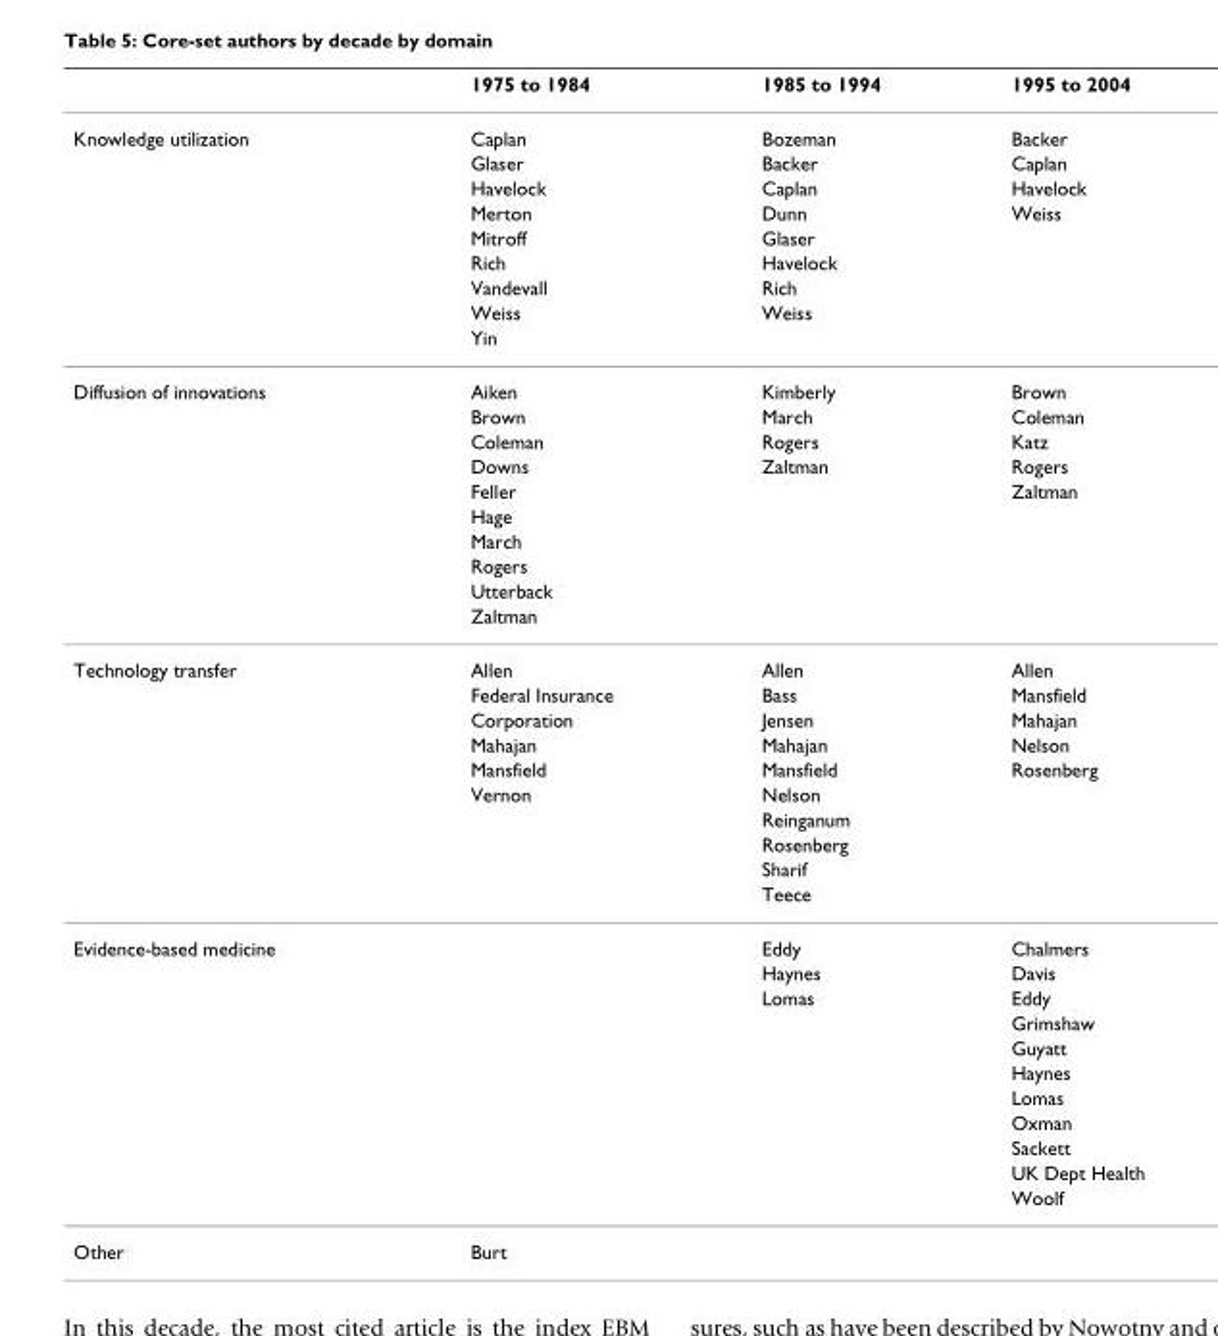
<table><thead><tr><td></td><td>1975 to 1984</td><td>1985 to 1994</td><td>1995 to 2004</td></tr></thead><tbody><tr><td rowspan="9">Knowledge utilization</td><td>Caplan</td><td>Bozeman</td><td>Backer</td></tr><tr><td>Glaser</td><td>Backer</td><td>Caplan</td></tr><tr><td>Havelock</td><td>Caplan</td><td>Havelock</td></tr><tr><td>Merton</td><td>Dunn</td><td>Weiss</td></tr><tr><td>Mitroff</td><td>Glaser</td><td></td></tr><tr><td>Rich</td><td>Havelock</td><td></td></tr><tr><td>Vandevall</td><td>Rich</td><td></td></tr><tr><td>Weiss</td><td>Weiss</td><td></td></tr><tr><td>Yin</td><td></td><td></td></tr><tr><td rowspan="10">Diffusion of innovations</td><td>Aiken</td><td>Kimberly</td><td>Brown</td></tr><tr><td>Brown</td><td>March</td><td>Coleman</td></tr><tr><td>Coleman</td><td>Rogers</td><td>Katz</td></tr><tr><td>Downs</td><td>Zaltman</td><td>Rogers</td></tr><tr><td>Feller</td><td></td><td>Zaltman</td></tr><tr><td>Hage</td><td></td><td></td></tr><tr><td>March</td><td></td><td></td></tr><tr><td>Rogers</td><td></td><td></td></tr><tr><td>Utterback</td><td></td><td></td></tr><tr><td>Zaltman</td><td></td><td></td></tr><tr><td rowspan="10">Technology transfer</td><td>Allen</td><td>Allen</td><td>Allen</td></tr><tr><td>Federal Insurance</td><td>Bass</td><td>Mansfield</td></tr><tr><td>Corporation</td><td>Jensen</td><td>Mahajan</td></tr><tr><td>Mahajan</td><td>Mahajan</td><td>Nelson</td></tr><tr><td>Mansfield</td><td>Mansfield</td><td>Rosenberg</td></tr><tr><td>Vernon</td><td>Nelson</td><td></td></tr><tr><td></td><td>Reinganum</td><td></td></tr><tr><td></td><td>Rosenberg</td><td></td></tr><tr><td></td><td>Sharif</td><td></td></tr><tr><td></td><td>Teece</td><td></td></tr><tr><td rowspan="11">Evidence-based medicine</td><td></td><td>Eddy</td><td>Chalmers</td></tr><tr><td></td><td>Haynes</td><td>Davis</td></tr><tr><td></td><td>Lomas</td><td>Eddy</td></tr><tr><td></td><td></td><td>Grimshaw</td></tr><tr><td></td><td></td><td>Guyatt</td></tr><tr><td></td><td></td><td>Haynes</td></tr><tr><td></td><td></td><td>Lomas</td></tr><tr><td></td><td></td><td>Oxman</td></tr><tr><td></td><td></td><td>Sackett</td></tr><tr><td></td><td></td><td>UK Dept Health</td></tr><tr><td></td><td></td><td>Woolf</td></tr><tr><td>Other</td><td>Burt</td><td></td><td></td></tr></tbody></table>